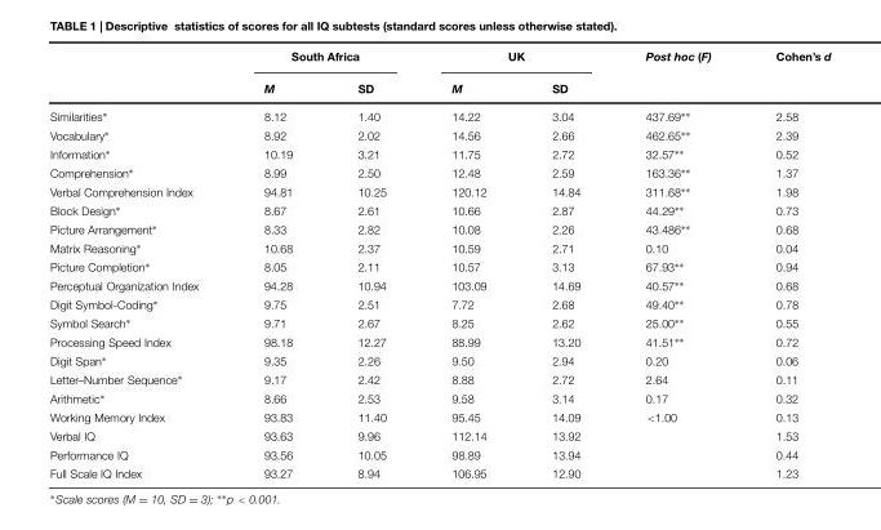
<table><thead><tr><td rowspan="2"></td><td colspan="2">South Africa</td><td colspan="2">UK</td><td rowspan="2">Post hoc (F)</td><td rowspan="2">Cohen’s d</td></tr><tr><td>M</td><td>SD</td><td>M</td><td>SD</td></tr></thead><tbody><tr><td>Similarities∗</td><td>8.12</td><td>1.40</td><td>14.22</td><td>3.04</td><td>437.69∗∗</td><td>2.58</td></tr><tr><td>Vocabulary∗</td><td>8.92</td><td>2.02</td><td>14.56</td><td>2.66</td><td>462.65∗∗</td><td>2.39</td></tr><tr><td>Information∗</td><td>10.19</td><td>3.21</td><td>11.75</td><td>2.72</td><td>32.57∗∗</td><td>0.52</td></tr><tr><td>Comprehension∗</td><td>8.99</td><td>2.50</td><td>12.48</td><td>2.59</td><td>163.36∗∗</td><td>1.37</td></tr><tr><td>Verbal Comprehension Index</td><td>94.81</td><td>10.25</td><td>120.12</td><td>14.84</td><td>311.68∗∗</td><td>1.98</td></tr><tr><td>Block Design∗</td><td>8.67</td><td>2.61</td><td>10.66</td><td>2.87</td><td>44.29∗∗</td><td>0.73</td></tr><tr><td>Picture Arrangement∗</td><td>8.33</td><td>2.82</td><td>10.08</td><td>2.26</td><td>43.486∗∗</td><td>0.68</td></tr><tr><td>Matrix Reasoning∗</td><td>10.68</td><td>2.37</td><td>10.59</td><td>2.71</td><td>0.10</td><td>0.04</td></tr><tr><td>Picture Completion∗</td><td>8.05</td><td>2.11</td><td>10.57</td><td>3.13</td><td>67.93∗∗</td><td>0.94</td></tr><tr><td>Perceptual Organization Index</td><td>94.28</td><td>10.94</td><td>103.09</td><td>14.69</td><td>40.57∗∗</td><td>0.68</td></tr><tr><td>Digit Symbol-Coding∗</td><td>9.75</td><td>2.51</td><td>7.72</td><td>2.68</td><td>49.40∗∗</td><td>0.78</td></tr><tr><td>Symbol Search∗</td><td>9.71</td><td>2.67</td><td>8.25</td><td>2.62</td><td>25.00∗∗</td><td>0.55</td></tr><tr><td>Processing Speed Index</td><td>98.18</td><td>12.27</td><td>88.99</td><td>13.20</td><td>41.51∗∗</td><td>0.72</td></tr><tr><td>Digit Span∗</td><td>9.35</td><td>2.26</td><td>9.50</td><td>2.94</td><td>0.20</td><td>0.06</td></tr><tr><td>Letter–Number Sequence∗</td><td>9.17</td><td>2.42</td><td>8.88</td><td>2.72</td><td>2.64</td><td>0.11</td></tr><tr><td>Arithmetic∗</td><td>8.66</td><td>2.53</td><td>9.58</td><td>3.14</td><td>0.17</td><td>0.32</td></tr><tr><td>Working Memory Index</td><td>93.83</td><td>11.40</td><td>95.45</td><td>14.09</td><td>&lt;1.00</td><td>0.13</td></tr><tr><td>Verbal IQ</td><td>93.63</td><td>9.96</td><td>112.14</td><td>13.92</td><td></td><td>1.53</td></tr><tr><td>Performance IQ</td><td>93.56</td><td>10.05</td><td>98.89</td><td>13.94</td><td></td><td>0.44</td></tr><tr><td>Full Scale IQ Index</td><td>93.27</td><td>8.94</td><td>106.95</td><td>12.90</td><td></td><td>1.23</td></tr></tbody></table>